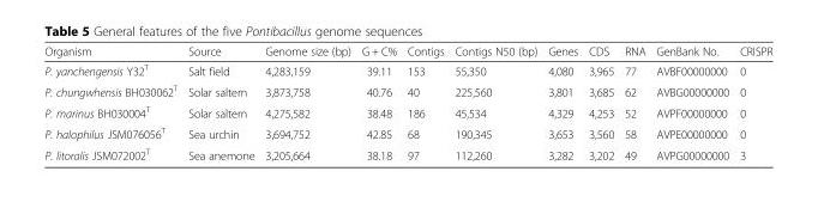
<table><thead><tr><td>Organism</td><td>Source</td><td>Genome size (bp)</td><td>G + C%</td><td>Contigs</td><td>Contigs N50 (bp)</td><td>Genes</td><td>CDS</td><td>RNA</td><td>GenBank No.</td><td>CRISPR</td></tr></thead><tbody><tr><td>P. yanchengensis Y32<sup>T</sup></td><td>Salt field</td><td>4,283,159</td><td>39.11</td><td>153</td><td>55,350</td><td>4,080</td><td>3,965</td><td>77</td><td>AVBF00000000</td><td>0</td></tr><tr><td>P. chungwhensis BH030062<sup>T</sup></td><td>Solar saltern</td><td>3,873,758</td><td>40.76</td><td>40</td><td>225,560</td><td>3,801</td><td>3,685</td><td>62</td><td>AVBG00000000</td><td>0</td></tr><tr><td>P. marinus BH030004<sup>T</sup></td><td>Solar saltern</td><td>4,275,582</td><td>38.48</td><td>186</td><td>45,534</td><td>4,329</td><td>4,253</td><td>52</td><td>AVPF00000000</td><td>0</td></tr><tr><td>P. halophilus JSM076056<sup>T</sup></td><td>Sea urchin</td><td>3,694,752</td><td>42.85</td><td>68</td><td>190,345</td><td>3,653</td><td>3,560</td><td>58</td><td>AVPE00000000</td><td>0</td></tr><tr><td>P. litoralis JSM072002<sup>T</sup></td><td>Sea anemone</td><td>3,205,664</td><td>38.18</td><td>97</td><td>112,260</td><td>3,282</td><td>3,202</td><td>49</td><td>AVPG00000000</td><td>3</td></tr></tbody></table>